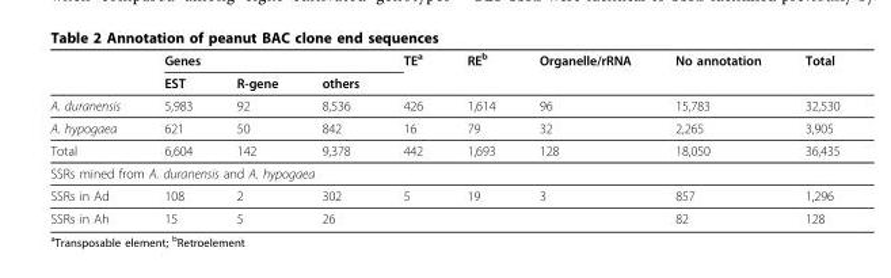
<table><thead><tr><td rowspan="2"></td><td colspan="3">Genes</td><td rowspan="2">TE<sup>a</sup></td><td rowspan="2">RE<sup>b</sup></td><td rowspan="2">Organelle/rRNA</td><td rowspan="2">No annotation</td><td rowspan="2">Total</td></tr><tr><td>EST</td><td>R-gene</td><td>others</td></tr></thead><tbody><tr><td>A. duranensis</td><td>5,983</td><td>92</td><td>8,536</td><td>426</td><td>1,614</td><td>96</td><td>15,783</td><td>32,530</td></tr><tr><td>A. hypogaea</td><td>621</td><td>50</td><td>842</td><td>16</td><td>79</td><td>32</td><td>2,265</td><td>3,905</td></tr><tr><td>Total</td><td>6,604</td><td>142</td><td>9,378</td><td>442</td><td>1,693</td><td>128</td><td>18,050</td><td>36,435</td></tr><tr><td colspan="9">SSRs mined from A. duranensis and A. hypogaea</td></tr><tr><td>SSRs in Ad</td><td>108</td><td>2</td><td>302</td><td>5</td><td>19</td><td>3</td><td>857</td><td>1,296</td></tr><tr><td>SSRs in Ah</td><td>15</td><td>5</td><td>26</td><td></td><td></td><td></td><td>82</td><td>128</td></tr></tbody></table>